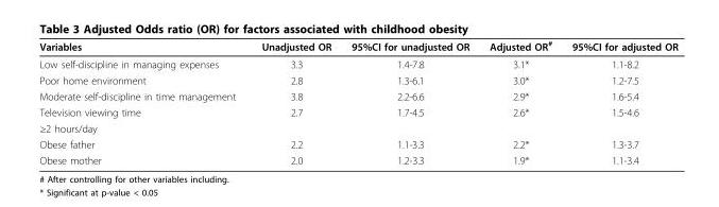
<table><thead><tr><td>Variables</td><td>Unadjusted OR</td><td>95%CI for unadjusted OR</td><td>Adjusted OR<sup>#</sup></td><td>95%CI for adjusted OR</td></tr></thead><tbody><tr><td>Low self-discipline in managing expenses</td><td>3.3</td><td>1.4-7.8</td><td>3.1*</td><td>1.1-8.2</td></tr><tr><td>Poor home environment</td><td>2.8</td><td>1.3-6.1</td><td>3.0*</td><td>1.2-7.5</td></tr><tr><td>Moderate self-discipline in time management</td><td>3.8</td><td>2.2-6.6</td><td>2.9*</td><td>1.6-5.4</td></tr><tr><td>Television viewing time</td><td>2.7</td><td>1.7-4.5</td><td>2.6*</td><td>1.5-4.6</td></tr><tr><td colspan="5">≥2 hours/day</td></tr><tr><td>Obese father</td><td>2.2</td><td>1.1-3.3</td><td>2.2*</td><td>1.3-3.7</td></tr><tr><td>Obese mother</td><td>2.0</td><td>1.2-3.3</td><td>1.9*</td><td>1.1-3.4</td></tr></tbody></table>